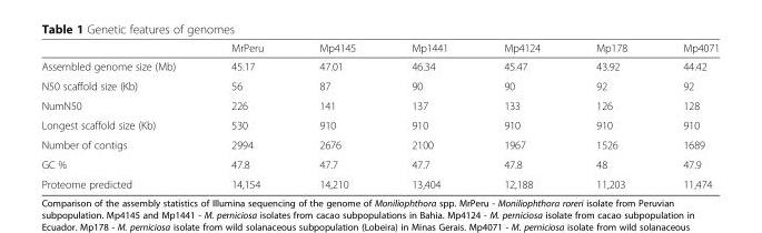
<table><thead><tr><td></td><td>MrPeru</td><td>Mp4145</td><td>Mp1441</td><td>Mp4124</td><td>Mp178</td><td>Mp4071</td></tr></thead><tbody><tr><td>Assembled genome size (Mb)</td><td>45.17</td><td>47.01</td><td>46.34</td><td>45.47</td><td>43.92</td><td>44.42</td></tr><tr><td>N50 scaffold size (Kb)</td><td>56</td><td>87</td><td>90</td><td>90</td><td>92</td><td>92</td></tr><tr><td>NumN50</td><td>226</td><td>141</td><td>137</td><td>133</td><td>126</td><td>128</td></tr><tr><td>Longest scaffold size (Kb)</td><td>530</td><td>910</td><td>910</td><td>910</td><td>910</td><td>910</td></tr><tr><td>Number of contigs</td><td>2994</td><td>2676</td><td>2100</td><td>1967</td><td>1526</td><td>1689</td></tr><tr><td>GC %</td><td>47.8</td><td>47.7</td><td>47.7</td><td>47.8</td><td>48</td><td>47.9</td></tr><tr><td>Proteome predicted</td><td>14,154</td><td>14,210</td><td>13,404</td><td>12,188</td><td>11,203</td><td>11,474</td></tr></tbody></table>